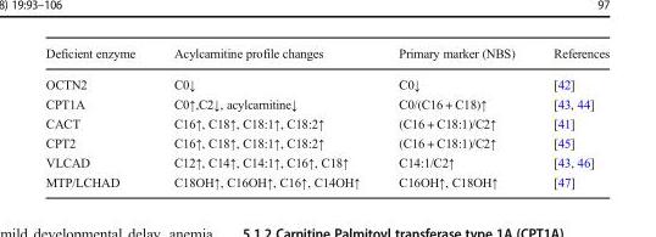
<table><thead><tr><td>Deficient enzyme</td><td>Acylcarnitine profile changes</td><td>Primary marker (NBS)</td><td>References</td></tr></thead><tbody><tr><td>OCTN2</td><td>C0↓</td><td>C0↓</td><td>[42]</td></tr><tr><td>CPT1A</td><td>C0↑,C2↓, acylcarnitine↓</td><td>C0/(C16 + C18)↑</td><td>[43, 44]</td></tr><tr><td>CACT</td><td>C16↑, C18↑, C18:1↑, C18:2↑</td><td>(C16 + C18:1)/C2↑</td><td>[41]</td></tr><tr><td>CPT2</td><td>C16↑, C18↑, C18:1↑, C18:2↑</td><td>(C16 + C18:1)/C2↑</td><td>[45]</td></tr><tr><td>VLCAD</td><td>C12↑, C14↑, C14:1↑, C16↑, C18↑</td><td>C14:1/C2↑</td><td>[43, 46]</td></tr><tr><td>MTP/LCHAD</td><td>C18OH↑, C16OH↑, C16↑, C14OH↑</td><td>C16OH↑, C18OH↑</td><td>[47]</td></tr></tbody></table>